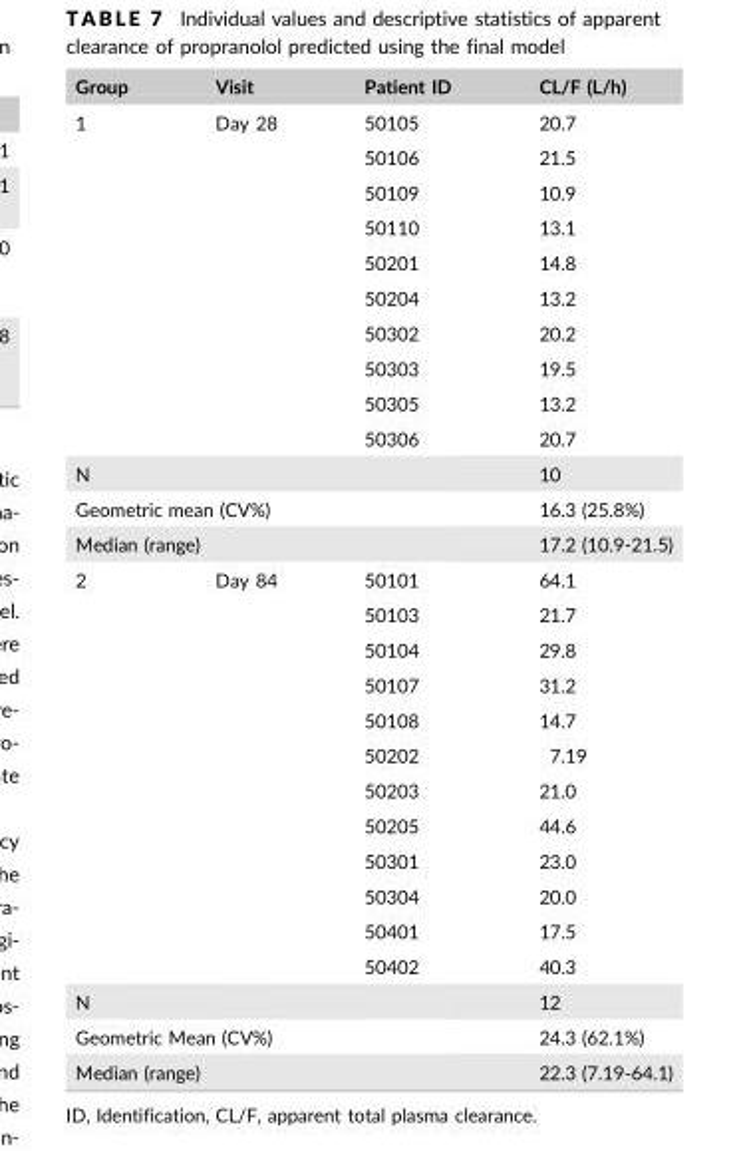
<table><thead><tr><td>Group</td><td>Visit</td><td>Patient ID</td><td>CL/F (L/h)</td></tr></thead><tbody><tr><td rowspan="10">1</td><td>Day 28</td><td>50105</td><td>20.7</td></tr><tr><td></td><td>50106</td><td>21.5</td></tr><tr><td></td><td>50109</td><td>10.9</td></tr><tr><td></td><td>50110</td><td>13.1</td></tr><tr><td></td><td>50201</td><td>14.8</td></tr><tr><td></td><td>50204</td><td>13.2</td></tr><tr><td></td><td>50302</td><td>20.2</td></tr><tr><td></td><td>50303</td><td>19.5</td></tr><tr><td></td><td>50305</td><td>13.2</td></tr><tr><td></td><td>50306</td><td>20.7</td></tr><tr><td colspan="3">N</td><td>10</td></tr><tr><td colspan="3">Geometric mean (CV%)</td><td>16.3 (25.8%)</td></tr><tr><td colspan="3">Median (range)</td><td>17.2 (10.9-21.5)</td></tr><tr><td rowspan="12">2</td><td>Day 84</td><td>50101</td><td>64.1</td></tr><tr><td></td><td>50103</td><td>21.7</td></tr><tr><td></td><td>50104</td><td>29.8</td></tr><tr><td></td><td>50107</td><td>31.2</td></tr><tr><td></td><td>50108</td><td>14.7</td></tr><tr><td></td><td>50202</td><td>7.19</td></tr><tr><td></td><td>50203</td><td>21.0</td></tr><tr><td></td><td>50205</td><td>44.6</td></tr><tr><td></td><td>50301</td><td>23.0</td></tr><tr><td></td><td>50304</td><td>20.0</td></tr><tr><td></td><td>50401</td><td>17.5</td></tr><tr><td></td><td>50402</td><td>40.3</td></tr><tr><td>N</td><td></td><td></td><td>12</td></tr><tr><td colspan="3">Geometric Mean (CV%)</td><td>24.3 (62.1%)</td></tr><tr><td colspan="3">Median (range)</td><td>22.3 (7.19-64.1)</td></tr></tbody></table>